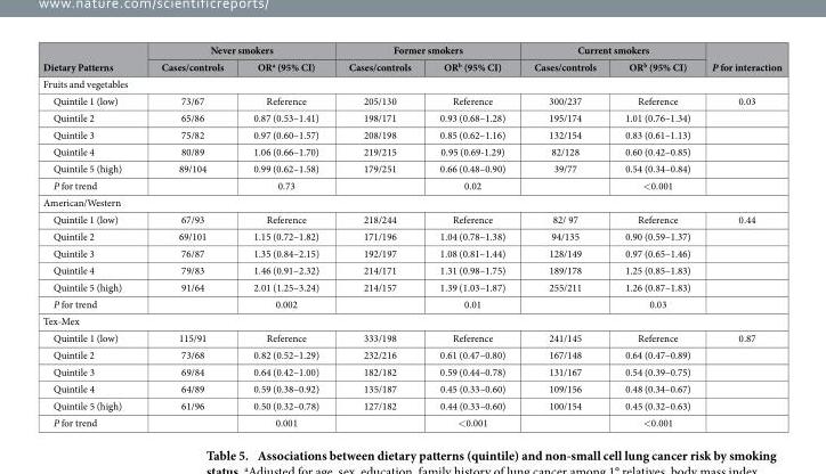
<table><thead><tr><td rowspan="2">Dietary Patterns</td><td colspan="2">Never smokers</td><td colspan="2">Former smokers</td><td colspan="2">Current smokers</td><td rowspan="2">P for interaction</td></tr><tr><td>Cases/controls</td><td>OR<sup>a</sup> (95% CI)</td><td>Cases/controls</td><td>OR<sup>b</sup> (95% CI)</td><td>Cases/controls</td><td>OR<sup>b</sup> (95% CI)</td></tr></thead><tbody><tr><td colspan="8">Fruits and vegetables</td></tr><tr><td>Quintile 1 (low)</td><td>73/67</td><td>Reference</td><td>205/130</td><td>Reference</td><td>300/237</td><td>Reference</td><td>0.03</td></tr><tr><td>Quintile 2</td><td>65/86</td><td>0.87 (0.53–1.41)</td><td>198/171</td><td>0.93 (0.68–1.28)</td><td>195/174</td><td>1.01 (0.76–1.34)</td><td></td></tr><tr><td>Quintile 3</td><td>75/82</td><td>0.97 (0.60–1.57)</td><td>208/198</td><td>0.85 (0.62–1.16)</td><td>132/154</td><td>0.83 (0.61–1.13)</td><td></td></tr><tr><td>Quintile 4</td><td>80/89</td><td>1.06 (0.66–1.70)</td><td>219/215</td><td>0.95 (0.69-1.29)</td><td>82/128</td><td>0.60 (0.42–0.85)</td><td></td></tr><tr><td>Quintile 5 (high)</td><td>89/104</td><td>0.99 (0.62–1.58)</td><td>179/251</td><td>0.66 (0.48–0.90)</td><td>39/77</td><td>0.54 (0.34–0.84)</td><td></td></tr><tr><td>P for trend</td><td></td><td>0.73</td><td></td><td>0.02</td><td></td><td>&lt;0.001</td><td></td></tr><tr><td colspan="8">American/Western</td></tr><tr><td>Quintile 1 (low)</td><td>67/93</td><td>Reference</td><td>218/244</td><td>Reference</td><td>82/ 97</td><td>Reference</td><td>0.44</td></tr><tr><td>Quintile 2</td><td>69/101</td><td>1.15 (0.72–1.82)</td><td>171/196</td><td>1.04 (0.78–1.38)</td><td>94/135</td><td>0.90 (0.59–1.37)</td><td></td></tr><tr><td>Quintile 3</td><td>76/87</td><td>1.35 (0.84–2.15)</td><td>192/197</td><td>1.08 (0.81–1.44)</td><td>128/149</td><td>0.97 (0.65–1.46)</td><td></td></tr><tr><td>Quintile 4</td><td>79/83</td><td>1.46 (0.91–2.32)</td><td>214/171</td><td>1.31 (0.98–1.75)</td><td>189/178</td><td>1.25 (0.85–1.83)</td><td></td></tr><tr><td>Quintile 5 (high)</td><td>91/64</td><td>2.01 (1.25–3.24)</td><td>214/157</td><td>1.39 (1.03–1.87)</td><td>255/211</td><td>1.26 (0.87–1.83)</td><td></td></tr><tr><td>P for trend</td><td></td><td>0.002</td><td></td><td>0.01</td><td></td><td>0.03</td><td></td></tr><tr><td colspan="8">Tex-Mex</td></tr><tr><td>Quintile 1 (low)</td><td>115/91</td><td>Reference</td><td>333/198</td><td>Reference</td><td>241/145</td><td>Reference</td><td>0.87</td></tr><tr><td>Quintile 2</td><td>73/68</td><td>0.82 (0.52–1.29)</td><td>232/216</td><td>0.61 (0.47–0.80)</td><td>167/148</td><td>0.64 (0.47–0.89)</td><td></td></tr><tr><td>Quintile 3</td><td>69/84</td><td>0.64 (0.42–1.00)</td><td>182/182</td><td>0.59 (0.44–0.78)</td><td>131/167</td><td>0.54 (0.39–0.75)</td><td></td></tr><tr><td>Quintile 4</td><td>64/89</td><td>0.59 (0.38–0.92)</td><td>135/187</td><td>0.45 (0.33–0.60)</td><td>109/156</td><td>0.48 (0.34–0.67)</td><td></td></tr><tr><td>Quintile 5 (high)</td><td>61/96</td><td>0.50 (0.32–0.78)</td><td>127/182</td><td>0.44 (0.33–0.60)</td><td>100/154</td><td>0.45 (0.32–0.63)</td><td></td></tr><tr><td>P for trend</td><td></td><td>0.001</td><td></td><td>&lt;0.001</td><td></td><td>&lt;0.001</td><td></td></tr></tbody></table>